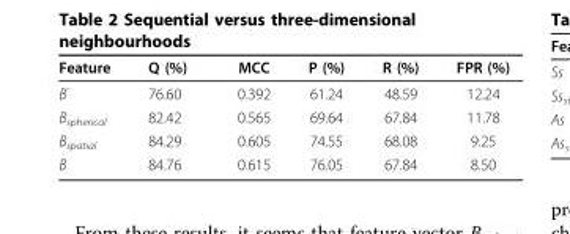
<table><thead><tr><td>Feature</td><td>Q (%)</td><td>MCC</td><td>P (%)</td><td>R (%)</td><td>FPR (%)</td></tr></thead><tbody><tr><td>B<sup>-</sup></td><td>76.60</td><td>0.392</td><td>61.24</td><td>48.59</td><td>12.24</td></tr><tr><td>B<sub>spherical</sub></td><td>82.42</td><td>0.565</td><td>69.64</td><td>67.84</td><td>11.78</td></tr><tr><td>B<sub>spatial</sub></td><td>84.29</td><td>0.605</td><td>74.55</td><td>68.08</td><td>9.25</td></tr><tr><td>B</td><td>84.76</td><td>0.615</td><td>76.05</td><td>67.84</td><td>8.50</td></tr></tbody></table>